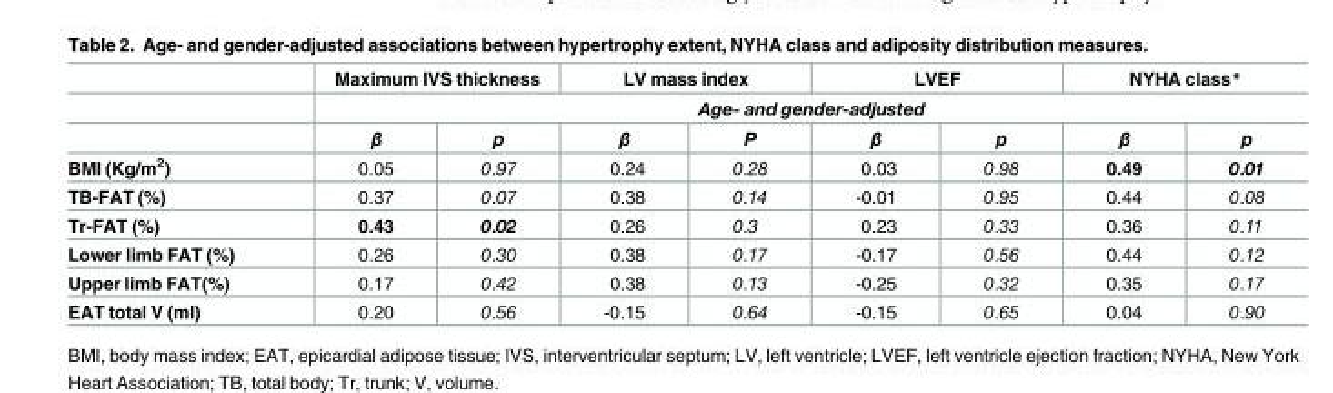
<table><thead><tr><td rowspan="3"></td><td colspan="2">Maximum IVS thickness</td><td colspan="2">LV mass index</td><td colspan="2">LVEF</td><td colspan="2">NYHA class*</td></tr><tr><td colspan="8">Age- and gender-adjusted</td></tr><tr><td>β</td><td>p</td><td>β</td><td>P</td><td>β</td><td>p</td><td>β</td><td>p</td></tr></thead><tbody><tr><td>BMI (Kg/m<sup>2</sup>)</td><td>0.05</td><td>0.97</td><td>0.24</td><td>0.28</td><td>0.03</td><td>0.98</td><td>0.49</td><td>0.01</td></tr><tr><td>TB-FAT (%)</td><td>0.37</td><td>0.07</td><td>0.38</td><td>0.14</td><td>-0.01</td><td>0.95</td><td>0.44</td><td>0.08</td></tr><tr><td>Tr-FAT (%)</td><td>0.43</td><td>0.02</td><td>0.26</td><td>0.3</td><td>0.23</td><td>0.33</td><td>0.36</td><td>0.11</td></tr><tr><td>Lower limb FAT (%)</td><td>0.26</td><td>0.30</td><td>0.38</td><td>0.17</td><td>-0.17</td><td>0.56</td><td>0.44</td><td>0.12</td></tr><tr><td>Upper limb FAT(%)</td><td>0.17</td><td>0.42</td><td>0.38</td><td>0.13</td><td>-0.25</td><td>0.32</td><td>0.35</td><td>0.17</td></tr><tr><td>EAT total V (ml)</td><td>0.20</td><td>0.56</td><td>-0.15</td><td>0.64</td><td>-0.15</td><td>0.65</td><td>0.04</td><td>0.90</td></tr></tbody></table>